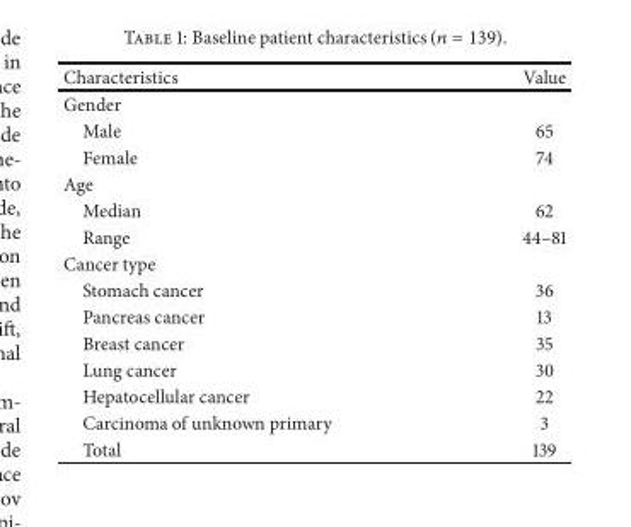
<table><thead><tr><td>Characteristics</td><td>Value</td></tr></thead><tbody><tr><td colspan="2">Gender</td></tr><tr><td>Male</td><td>65</td></tr><tr><td>Female</td><td>74</td></tr><tr><td colspan="2">Age</td></tr><tr><td>Median</td><td>62</td></tr><tr><td>Range</td><td>44–81</td></tr><tr><td colspan="2">Cancer type</td></tr><tr><td>Stomach cancer</td><td>36</td></tr><tr><td>Pancreas cancer</td><td>13</td></tr><tr><td>Breast cancer</td><td>35</td></tr><tr><td>Lung cancer</td><td>30</td></tr><tr><td>Hepatocellular cancer</td><td>22</td></tr><tr><td>Carcinoma of unknown primary</td><td>3</td></tr><tr><td>Total</td><td>139</td></tr></tbody></table>